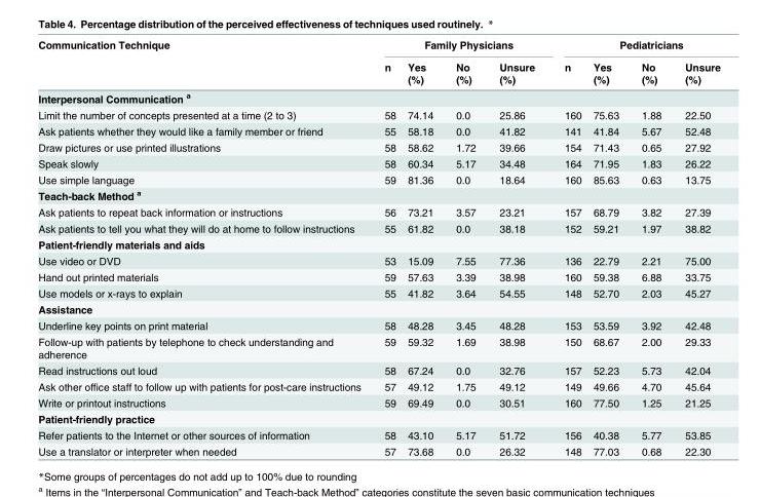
<table><thead><tr><td rowspan="2">Communication Technique</td><td colspan="4">Family Physicians</td><td colspan="4">Pediatricians</td></tr><tr><td>n</td><td>Yes (%)</td><td>No (%)</td><td>Unsure (%)</td><td>n</td><td>Yes (%)</td><td>No (%)</td><td>Unsure (%)</td></tr></thead><tbody><tr><td colspan="9">Interpersonal Communication <sup>a</sup></td></tr><tr><td>Limit the number of concepts presented at a time (2 to 3)</td><td>58</td><td>74.14</td><td>0.0</td><td>25.86</td><td>160</td><td>75.63</td><td>1.88</td><td>22.50</td></tr><tr><td>Ask patients whether they would like a family member or friend</td><td>55</td><td>58.18</td><td>0.0</td><td>41.82</td><td>141</td><td>41.84</td><td>5.67</td><td>52.48</td></tr><tr><td>Draw pictures or use printed illustrations</td><td>58</td><td>58.62</td><td>1.72</td><td>39.66</td><td>154</td><td>71.43</td><td>0.65</td><td>27.92</td></tr><tr><td>Speak slowly</td><td>58</td><td>60.34</td><td>5.17</td><td>34.48</td><td>164</td><td>71.95</td><td>1.83</td><td>26.22</td></tr><tr><td>Use simple language</td><td>59</td><td>81.36</td><td>0.0</td><td>18.64</td><td>160</td><td>85.63</td><td>0.63</td><td>13.75</td></tr><tr><td colspan="9">Teach-back Method <sup>a</sup></td></tr><tr><td>Ask patients to repeat back information or instructions</td><td>56</td><td>73.21</td><td>3.57</td><td>23.21</td><td>157</td><td>68.79</td><td>3.82</td><td>27.39</td></tr><tr><td>Ask patients to tell you what they will do at home to follow instructions</td><td>55</td><td>61.82</td><td>0.0</td><td>38.18</td><td>152</td><td>59.21</td><td>1.97</td><td>38.82</td></tr><tr><td colspan="9">Patient-friendly materials and aids</td></tr><tr><td>Use video or DVD</td><td>53</td><td>15.09</td><td>7.55</td><td>77.36</td><td>136</td><td>22.79</td><td>2.21</td><td>75.00</td></tr><tr><td>Hand out printed materials</td><td>59</td><td>57.63</td><td>3.39</td><td>38.98</td><td>160</td><td>59.38</td><td>6.88</td><td>33.75</td></tr><tr><td>Use models or x-rays to explain</td><td>55</td><td>41.82</td><td>3.64</td><td>54.55</td><td>148</td><td>52.70</td><td>2.03</td><td>45.27</td></tr><tr><td colspan="9">Assistance</td></tr><tr><td>Underline key points on print material</td><td>58</td><td>48.28</td><td>3.45</td><td>48.28</td><td>153</td><td>53.59</td><td>3.92</td><td>42.48</td></tr><tr><td>Follow-up with patients by telephone to check understanding and adherence</td><td>59</td><td>59.32</td><td>1.69</td><td>38.98</td><td>150</td><td>68.67</td><td>2.00</td><td>29.33</td></tr><tr><td>Read instructions out loud</td><td>58</td><td>67.24</td><td>0.0</td><td>32.76</td><td>157</td><td>52.23</td><td>5.73</td><td>42.04</td></tr><tr><td>Ask other office staff to follow up with patients for post-care instructions</td><td>57</td><td>49.12</td><td>1.75</td><td>49.12</td><td>149</td><td>49.66</td><td>4.70</td><td>45.64</td></tr><tr><td>Write or printout instructions</td><td>59</td><td>69.49</td><td>0.0</td><td>30.51</td><td>160</td><td>77.50</td><td>1.25</td><td>21.25</td></tr><tr><td colspan="9">Patient-friendly practice</td></tr><tr><td>Refer patients to the Internet or other sources of information</td><td>58</td><td>43.10</td><td>5.17</td><td>51.72</td><td>156</td><td>40.38</td><td>5.77</td><td>53.85</td></tr><tr><td>Use a translator or interpreter when needed</td><td>57</td><td>73.68</td><td>0.0</td><td>26.32</td><td>148</td><td>77.03</td><td>0.68</td><td>22.30</td></tr></tbody></table>